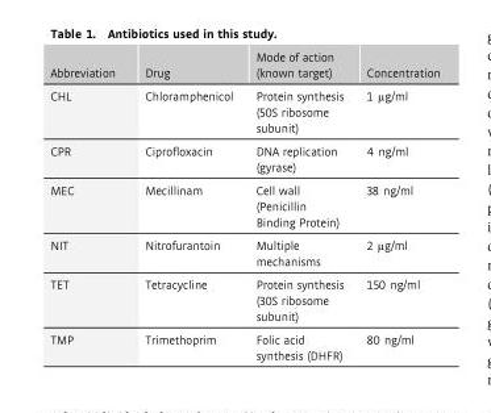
<table><thead><tr><td>Abbreviation</td><td>Drug</td><td>Mode of action (known target)</td><td>Concentration</td></tr></thead><tbody><tr><td>CHL</td><td>Chloramphenicol</td><td>Protein synthesis (50S ribosome subunit)</td><td>1 µg/ml</td></tr><tr><td>CPR</td><td>Ciprofloxacin</td><td>DNA replication (gyrase)</td><td>4 ng/ml</td></tr><tr><td>MEC</td><td>Mecillinam</td><td>Cell wall (Penicillin Binding Protein)</td><td>38 ng/ml</td></tr><tr><td>NIT</td><td>Nitrofurantoin</td><td>Multiple mechanisms</td><td>2 µg/ml</td></tr><tr><td>TET</td><td>Tetracycline</td><td>Protein synthesis (30S ribosome subunit)</td><td>150 ng/ml</td></tr><tr><td>TMP</td><td>Trimethoprim</td><td>Folic acid synthesis (DHFR)</td><td>80 ng/ml</td></tr></tbody></table>